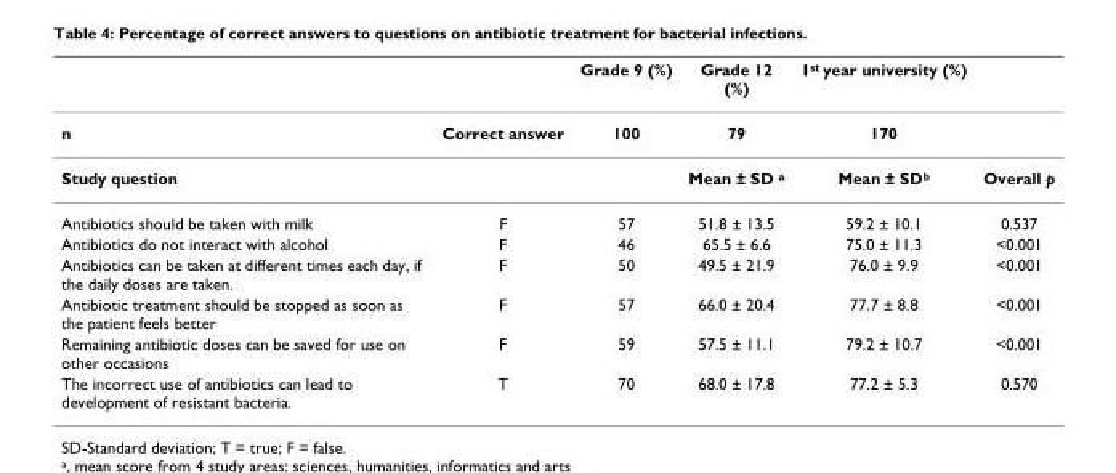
<table><thead><tr><td></td><td></td><td>Grade 9 (%)</td><td>Grade 12 (%)</td><td>1<sup>st</sup> year university (%)</td><td></td></tr></thead><tbody><tr><td>n</td><td>Correct answer</td><td>100</td><td>79</td><td>170</td><td></td></tr><tr><td>Study question</td><td></td><td></td><td>Mean ± SD <sup>a</sup></td><td>Mean ± SD<sup>b</sup></td><td>Overall p</td></tr><tr><td>Antibiotics should be taken with milk</td><td>F</td><td>57</td><td>51.8 ± 13.5</td><td>59.2 ± 10.1</td><td>0.537</td></tr><tr><td>Antibiotics do not interact with alcohol</td><td>F</td><td>46</td><td>65.5 ± 6.6</td><td>75.0 ± 11.3</td><td>&lt;0.001</td></tr><tr><td>Antibiotics can be taken at different times each day, if the daily doses are taken.</td><td>F</td><td>50</td><td>49.5 ± 21.9</td><td>76.0 ± 9.9</td><td>&lt;0.001</td></tr><tr><td>Antibiotic treatment should be stopped as soon as the patient feels better</td><td>F</td><td>57</td><td>66.0 ± 20.4</td><td>77.7 ± 8.8</td><td>&lt;0.001</td></tr><tr><td>Remaining antibiotic doses can be saved for use on other occasions</td><td>F</td><td>59</td><td>57.5 ± 11.1</td><td>79.2 ± 10.7</td><td>&lt;0.001</td></tr><tr><td>The incorrect use of antibiotics can lead to development of resistant bacteria.</td><td>T</td><td>70</td><td>68.0 ± 17.8</td><td>77.2 ± 5.3</td><td>0.570</td></tr></tbody></table>